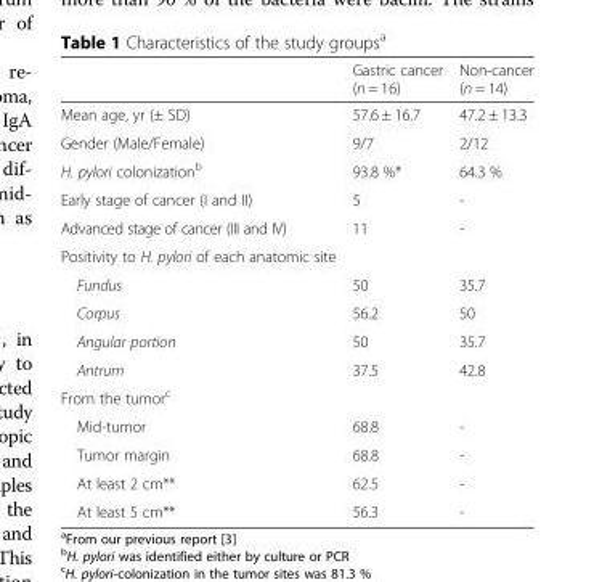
<table><thead><tr><td></td><td>Gastric cancer (n = 16)</td><td>Non-cancer (n = 14)</td></tr></thead><tbody><tr><td>Mean age, yr (± SD)</td><td>57.6 ± 16.7</td><td>47.2 ± 13.3</td></tr><tr><td>Gender (Male/Female)</td><td>9/7</td><td>2/12</td></tr><tr><td>H. pylori colonization<sup>b</sup></td><td>93.8 %*</td><td>64.3 %</td></tr><tr><td>Early stage of cancer (I and II)</td><td>5</td><td>-</td></tr><tr><td>Advanced stage of cancer (III and IV)</td><td>11</td><td>-</td></tr><tr><td colspan="3">Positivity to H. pylori of each anatomic site</td></tr><tr><td>Fundus</td><td>50</td><td>35.7</td></tr><tr><td>Corpus</td><td>56.2</td><td>50</td></tr><tr><td>Angular portion</td><td>50</td><td>35.7</td></tr><tr><td>Antrum</td><td>37.5</td><td>42.8</td></tr><tr><td colspan="3">From the tumor<sup>c</sup></td></tr><tr><td>Mid-tumor</td><td>68.8</td><td>-</td></tr><tr><td>Tumor margin</td><td>68.8</td><td>-</td></tr><tr><td>At least 2 cm**</td><td>62.5</td><td>-</td></tr><tr><td>At least 5 cm**</td><td>56.3</td><td>-</td></tr></tbody></table>